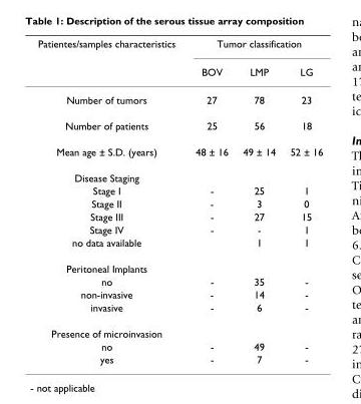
<table><thead><tr><td rowspan="2">Patientes/samples characteristics</td><td colspan="3">Tumor classification</td></tr><tr><td>BOV</td><td>LMP</td><td>LG</td></tr></thead><tbody><tr><td>Number of tumors</td><td>27</td><td>78</td><td>23</td></tr><tr><td>Number of patients</td><td>25</td><td>56</td><td>18</td></tr><tr><td>Mean age ± S.D. (years)</td><td>48 ± 16</td><td>49 ± 14</td><td>52 ± 16</td></tr><tr><td colspan="4">Disease Staging</td></tr><tr><td>Stage I</td><td>-</td><td>25</td><td>1</td></tr><tr><td>Stage II</td><td>-</td><td>3</td><td>0</td></tr><tr><td>Stage III</td><td>-</td><td>27</td><td>15</td></tr><tr><td>Stage IV</td><td>-</td><td>-</td><td>1</td></tr><tr><td>no data available</td><td></td><td>1</td><td>1</td></tr><tr><td colspan="4">Peritoneal Implants</td></tr><tr><td>no</td><td>-</td><td>35</td><td>-</td></tr><tr><td>non-invasive</td><td>-</td><td>14</td><td>-</td></tr><tr><td>invasive</td><td>-</td><td>6</td><td>-</td></tr><tr><td colspan="4">Presence of microinvasion</td></tr><tr><td>no</td><td>-</td><td>49</td><td>-</td></tr><tr><td>yes</td><td>-</td><td>7</td><td>-</td></tr></tbody></table>